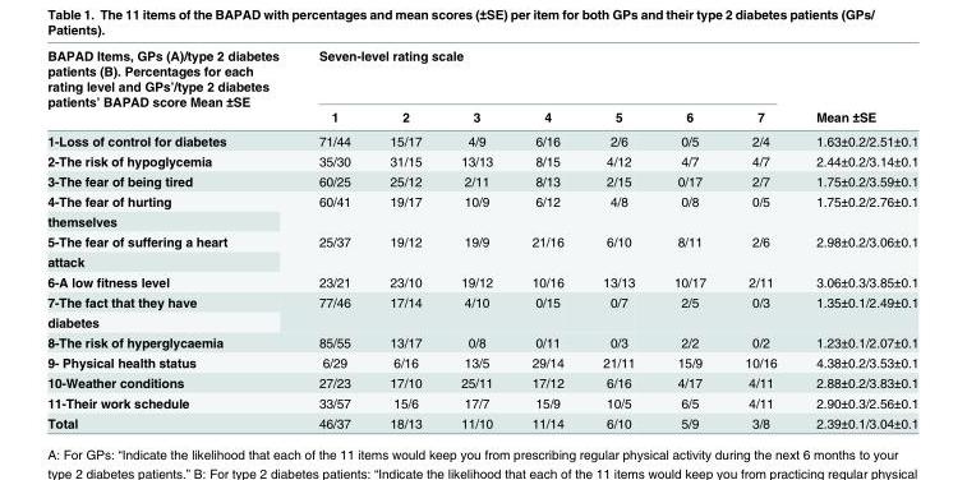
<table><thead><tr><td rowspan="2">BAPAD Items, GPs (A)/type 2 diabetes patients (B). Percentages for each rating level and GPs’/type 2 diabetes patients’ BAPAD score Mean ±SE</td><td colspan="7">Seven-level rating scale</td><td rowspan="2">Mean ±SE</td></tr><tr><td>1</td><td>2</td><td>3</td><td>4</td><td>5</td><td>6</td><td>7</td></tr></thead><tbody><tr><td>1-Loss of control for diabetes</td><td>71/44</td><td>15/17</td><td>4/9</td><td>6/16</td><td>2/6</td><td>0/5</td><td>2/4</td><td>1.63±0.2/2.51±0.1</td></tr><tr><td>2-The risk of hypoglycemia</td><td>35/30</td><td>31/15</td><td>13/13</td><td>8/15</td><td>4/12</td><td>4/7</td><td>4/7</td><td>2.44±0.2/3.14±0.1</td></tr><tr><td>3-The fear of being tired</td><td>60/25</td><td>25/12</td><td>2/11</td><td>8/13</td><td>2/15</td><td>0/17</td><td>2/7</td><td>1.75±0.2/3.59±0.1</td></tr><tr><td>4-The fear of hurting</td><td rowspan="2">60/41</td><td rowspan="2">19/17</td><td rowspan="2">10/9</td><td rowspan="2">6/12</td><td rowspan="2">4/8</td><td rowspan="2">0/8</td><td rowspan="2">0/5</td><td rowspan="2">1.75±0.2/2.76±0.1</td></tr><tr><td>themselves</td></tr><tr><td>5-The fear of suffering a heart</td><td rowspan="2">25/37</td><td rowspan="2">19/12</td><td rowspan="2">19/9</td><td rowspan="2">21/16</td><td rowspan="2">6/10</td><td rowspan="2">8/11</td><td rowspan="2">2/6</td><td rowspan="2">2.98±0.2/3.06±0.1</td></tr><tr><td>attack</td></tr><tr><td>6-A low fitness level</td><td>23/21</td><td>23/10</td><td>19/12</td><td>10/16</td><td>13/13</td><td>10/17</td><td>2/11</td><td>3.06±0.3/3.85±0.1</td></tr><tr><td>7-The fact that they have</td><td rowspan="2">77/46</td><td rowspan="2">17/14</td><td rowspan="2">4/10</td><td rowspan="2">0/15</td><td rowspan="2">0/7</td><td rowspan="2">2/5</td><td rowspan="2">0/3</td><td rowspan="2">1.35±0.1/2.49±0.1</td></tr><tr><td>diabetes</td></tr><tr><td>8-The risk of hyperglycaemia</td><td>85/55</td><td>13/17</td><td>0/8</td><td>0/11</td><td>0/3</td><td>2/2</td><td>0/2</td><td>1.23±0.1/2.07±0.1</td></tr><tr><td>9- Physical health status</td><td>6/29</td><td>6/16</td><td>13/5</td><td>29/14</td><td>21/11</td><td>15/9</td><td>10/16</td><td>4.38±0.2/3.53±0.1</td></tr><tr><td>10-Weather conditions</td><td>27/23</td><td>17/10</td><td>25/11</td><td>17/12</td><td>6/16</td><td>4/17</td><td>4/11</td><td>2.88±0.2/3.83±0.1</td></tr><tr><td>11-Their work schedule</td><td>33/57</td><td>15/6</td><td>17/7</td><td>15/9</td><td>10/5</td><td>6/5</td><td>4/11</td><td>2.90±0.3/2.56±0.1</td></tr><tr><td>Total</td><td>46/37</td><td>18/13</td><td>11/10</td><td>11/14</td><td>6/10</td><td>5/9</td><td>3/8</td><td>2.39±0.1/3.04±0.1</td></tr></tbody></table>